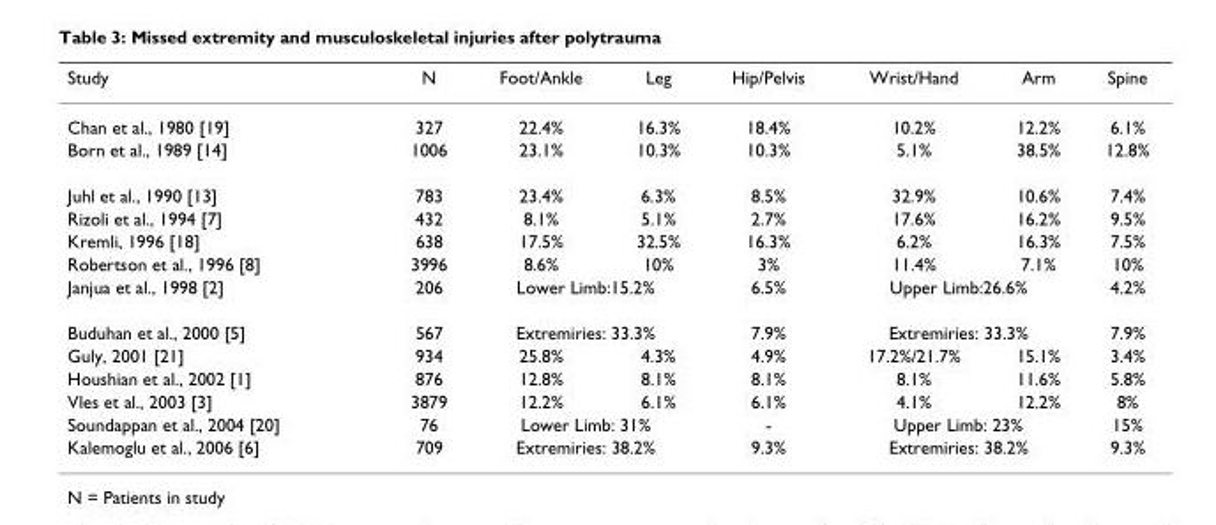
<table><thead><tr><td>Study</td><td>N</td><td>Foot/Ankle</td><td>Leg</td><td>Hip/Pelvis</td><td>Wrist/Hand</td><td>Arm</td><td>Spine</td></tr></thead><tbody><tr><td>Chan et al., 1980 [19]</td><td>327</td><td>22.4%</td><td>16.3%</td><td>18.4%</td><td>10.2%</td><td>12.2%</td><td>6.1%</td></tr><tr><td>Born et al., 1989 [14]</td><td>1006</td><td>23.1%</td><td>10.3%</td><td>10.3%</td><td>5.1%</td><td>38.5%</td><td>12.8%</td></tr><tr><td>Juhl et al., 1990 [13]</td><td>783</td><td>23.4%</td><td>6.3%</td><td>8.5%</td><td>32.9%</td><td>10.6%</td><td>7.4%</td></tr><tr><td>Rizoli et al., 1994 [7]</td><td>432</td><td>8.1%</td><td>5.1%</td><td>2.7%</td><td>17.6%</td><td>16.2%</td><td>9.5%</td></tr><tr><td>Kremli, 1996 [18]</td><td>638</td><td>17.5%</td><td>32.5%</td><td>16.3%</td><td>6.2%</td><td>16.3%</td><td>7.5%</td></tr><tr><td>Robertson et al., 1996 [8]</td><td>3996</td><td>8.6%</td><td>10%</td><td>3%</td><td>11.4%</td><td>7.1%</td><td>10%</td></tr><tr><td>Janjua et al., 1998 [2]</td><td>206</td><td colspan="2">Lower Limb:15.2%</td><td>6.5%</td><td colspan="2">Upper Limb:26.6%</td><td>4.2%</td></tr><tr><td>Buduhan et al., 2000 [5]</td><td>567</td><td colspan="2">Extremiries: 33.3%</td><td>7.9%</td><td colspan="2">Extremiries: 33.3%</td><td>7.9%</td></tr><tr><td>Guly, 2001 [21]</td><td>934</td><td>25.8%</td><td>4.3%</td><td>4.9%</td><td>17.2%/21.7%</td><td>15.1%</td><td>3.4%</td></tr><tr><td>Houshian et al., 2002 [1]</td><td>876</td><td>12.8%</td><td>8.1%</td><td>8.1%</td><td>8.1%</td><td>11.6%</td><td>5.8%</td></tr><tr><td>Vles et al., 2003 [3]</td><td>3879</td><td>12.2%</td><td>6.1%</td><td>6.1%</td><td>4.1%</td><td>12.2%</td><td>8%</td></tr><tr><td>Soundappan et al., 2004 [20]</td><td>76</td><td colspan="2">Lower Limb: 31%</td><td>-</td><td colspan="2">Upper Limb: 23%</td><td>15%</td></tr><tr><td>Kalemoglu et al., 2006 [6]</td><td>709</td><td colspan="2">Extremiries: 38.2%</td><td>9.3%</td><td colspan="2">Extremiries: 38.2%</td><td>9.3%</td></tr></tbody></table>